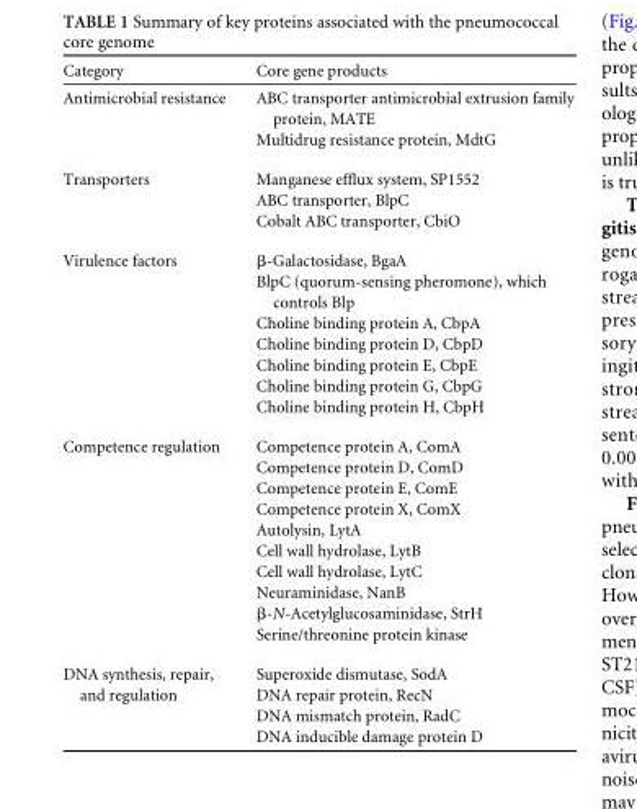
<table><thead><tr><td>Category</td><td>Core gene products</td></tr></thead><tbody><tr><td rowspan="2">Antimicrobial resistance</td><td>ABC transporter antimicrobial extrusion family protein, MATE</td></tr><tr><td>Multidrug resistance protein, MdtG</td></tr><tr><td rowspan="3">Transporters</td><td>Manganese efflux system, SP1552</td></tr><tr><td>ABC transporter, BlpC</td></tr><tr><td>Cobalt ABC transporter, CbiO</td></tr><tr><td rowspan="7">Virulence factors</td><td>β-Galactosidase, BgaA</td></tr><tr><td>BlpC (quorum-sensing pheromone), which controls Blp</td></tr><tr><td>Choline binding protein A, CbpA</td></tr><tr><td>Choline binding protein D, CbpD</td></tr><tr><td>Choline binding protein E, CbpE</td></tr><tr><td>Choline binding protein G, CbpG</td></tr><tr><td>Choline binding protein H, CbpH</td></tr><tr><td rowspan="10">Competence regulation</td><td>Competence protein A, ComA</td></tr><tr><td>Competence protein D, ComD</td></tr><tr><td>Competence protein E, ComE</td></tr><tr><td>Competence protein X, ComX</td></tr><tr><td>Autolysin, LytA</td></tr><tr><td>Cell wall hydrolase, LytB</td></tr><tr><td>Cell wall hydrolase, LytC</td></tr><tr><td>Neuraminidase, NanB</td></tr><tr><td>β-N-Acetylglucosaminidase, StrH</td></tr><tr><td>Serine/threonine protein kinase</td></tr><tr><td rowspan="4">DNA synthesis, repair, and regulation</td><td>Superoxide dismutase, SodA</td></tr><tr><td>DNA repair protein, RecN</td></tr><tr><td>DNA mismatch protein, RadC</td></tr><tr><td>DNA inducible damage protein D</td></tr></tbody></table>